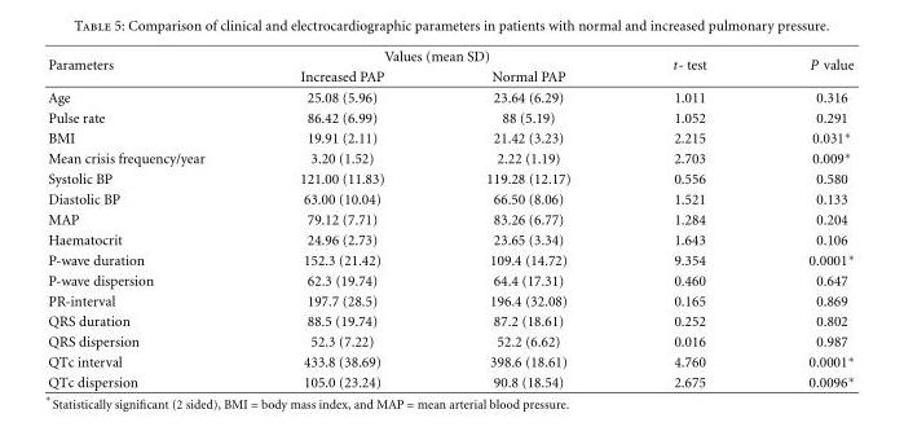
<table><thead><tr><td rowspan="2">Parameters</td><td colspan="2">Values (mean SD)</td><td rowspan="2">t- test</td><td rowspan="2">P value</td></tr><tr><td>Increased PAP</td><td>Normal PAP</td></tr></thead><tbody><tr><td>Age</td><td>25.08 (5.96)</td><td>23.64 (6.29)</td><td>1.011</td><td>0.316</td></tr><tr><td>Pulse rate</td><td>86.42 (6.99)</td><td>88 (5.19)</td><td>1.052</td><td>0.291</td></tr><tr><td>BMI</td><td>19.91 (2.11)</td><td>21.42 (3.23)</td><td>2.215</td><td>0.031∗</td></tr><tr><td>Mean crisis frequency/year</td><td>3.20 (1.52)</td><td>2.22 (1.19)</td><td>2.703</td><td>0.009∗</td></tr><tr><td>Systolic BP</td><td>121.00 (11.83)</td><td>119.28 (12.17)</td><td>0.556</td><td>0.580</td></tr><tr><td>Diastolic BP</td><td>63.00 (10.04)</td><td>66.50 (8.06)</td><td>1.521</td><td>0.133</td></tr><tr><td>MAP</td><td>79.12 (7.71)</td><td>83.26 (6.77)</td><td>1.284</td><td>0.204</td></tr><tr><td>Haematocrit</td><td>24.96 (2.73)</td><td>23.65 (3.34)</td><td>1.643</td><td>0.106</td></tr><tr><td>P-wave duration</td><td>152.3 (21.42)</td><td>109.4 (14.72)</td><td>9.354</td><td>0.0001∗</td></tr><tr><td>P-wave dispersion</td><td>62.3 (19.74)</td><td>64.4 (17.31)</td><td>0.460</td><td>0.647</td></tr><tr><td>PR-interval</td><td>197.7 (28.5)</td><td>196.4 (32.08)</td><td>0.165</td><td>0.869</td></tr><tr><td>QRS duration</td><td>88.5 (19.74)</td><td>87.2 (18.61)</td><td>0.252</td><td>0.802</td></tr><tr><td>QRS dispersion</td><td>52.3 (7.22)</td><td>52.2 (6.62)</td><td>0.016</td><td>0.987</td></tr><tr><td>QTc interval</td><td>433.8 (38.69)</td><td>398.6 (18.61)</td><td>4.760</td><td>0.0001∗</td></tr><tr><td>QTc dispersion</td><td>105.0 (23.24)</td><td>90.8 (18.54)</td><td>2.675</td><td>0.0096∗</td></tr></tbody></table>